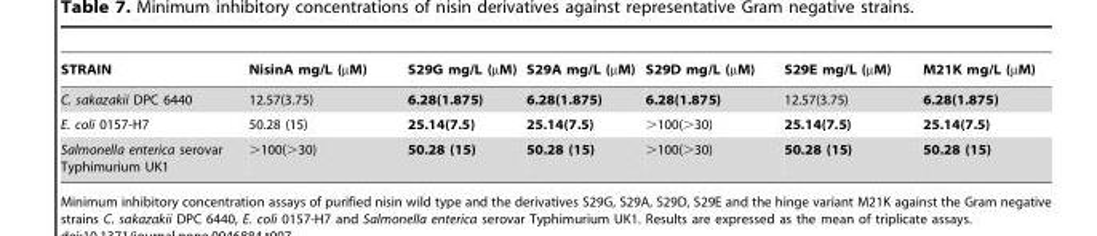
<table><thead><tr><td>STRAIN</td><td>NisinA mg/L (µM)</td><td>S29G mg/L (µM)</td><td>S29A mg/L (µM)</td><td>S29D mg/L (µM)</td><td>S29E mg/L (µM)</td><td>M21K mg/L (µM)</td></tr></thead><tbody><tr><td>C. sakazakii DPC 6440</td><td>12.57(3.75)</td><td>6.28(1.875)</td><td>6.28(1.875)</td><td>6.28(1.875)</td><td>12.57(3.75)</td><td>6.28(1.875)</td></tr><tr><td>E. coli 0157-H7</td><td>50.28 (15)</td><td>25.14(7.5)</td><td>25.14(7.5)</td><td>&gt;100(&gt;30)</td><td>25.14(7.5)</td><td>25.14(7.5)</td></tr><tr><td>Salmonella enterica serovar Typhimurium UK1</td><td>&gt;100(&gt;30)</td><td>50.28 (15)</td><td>50.28 (15)</td><td>&gt;100(&gt;30)</td><td>50.28 (15)</td><td>50.28 (15)</td></tr></tbody></table>